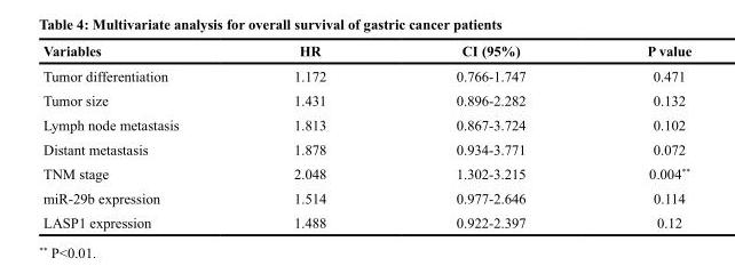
<table><thead><tr><td>Variables</td><td>HR</td><td>CI (95%)</td><td>P value</td></tr></thead><tbody><tr><td>Tumor differentiation</td><td>1.172</td><td>0.766-1.747</td><td>0.471</td></tr><tr><td>Tumor size</td><td>1.431</td><td>0.896-2.282</td><td>0.132</td></tr><tr><td>Lymph node metastasis</td><td>1.813</td><td>0.867-3.724</td><td>0.102</td></tr><tr><td>Distant metastasis</td><td>1.878</td><td>0.934-3.771</td><td>0.072</td></tr><tr><td>TNM stage</td><td>2.048</td><td>1.302-3.215</td><td>0.004**</td></tr><tr><td>miR-29b expression</td><td>1.514</td><td>0.977-2.646</td><td>0.114</td></tr><tr><td>LASP1 expression</td><td>1.488</td><td>0.922-2.397</td><td>0.12</td></tr></tbody></table>